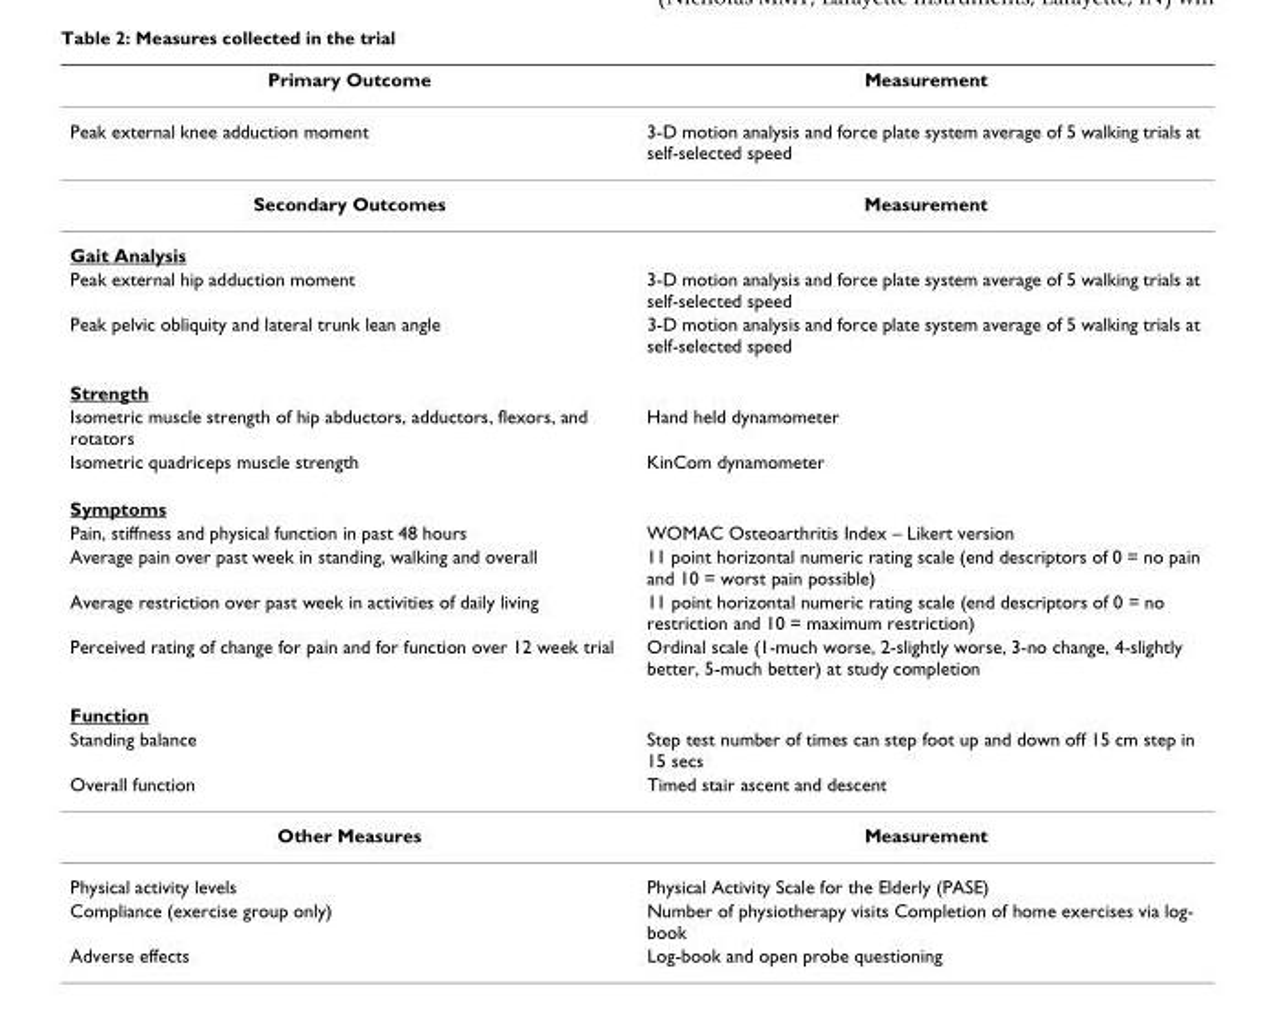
<table><thead><tr><td>Primary Outcome</td><td>Measurement</td></tr></thead><tbody><tr><td>Peak external knee adduction moment</td><td>3-D motion analysis and force plate system average of 5 walking trials at self-selected speed</td></tr><tr><td>Secondary Outcomes</td><td>Measurement</td></tr><tr><td colspan="2">Gait Analysis</td></tr><tr><td>Peak external hip adduction moment</td><td>3-D motion analysis and force plate system average of 5 walking trials at self-selected speed</td></tr><tr><td>Peak pelvic obliquity and lateral trunk lean angle</td><td>3-D motion analysis and force plate system average of 5 walking trials at self-selected speed</td></tr><tr><td colspan="2">Strength</td></tr><tr><td>Isometric muscle strength of hip abductors, adductors, flexors, and rotators</td><td>Hand held dynamometer</td></tr><tr><td>Isometric quadriceps muscle strength</td><td>KinCom dynamometer</td></tr><tr><td colspan="2">Symptoms</td></tr><tr><td>Pain, stiffness and physical function in past 48 hours</td><td>WOMAC Osteoarthritis Index – Likert version</td></tr><tr><td>Average pain over past week in standing, walking and overall</td><td>11 point horizontal numeric rating scale (end descriptors of 0 = no pain and 10 = worst pain possible)</td></tr><tr><td>Average restriction over past week in activities of daily living</td><td>11 point horizontal numeric rating scale (end descriptors of 0 = no restriction and 10 = maximum restriction)</td></tr><tr><td>Perceived rating of change for pain and for function over 12 week trial</td><td>Ordinal scale (1-much worse, 2-slightly worse, 3-no change, 4-slightly better, 5-much better) at study completion</td></tr><tr><td colspan="2">Function</td></tr><tr><td>Standing balance</td><td>Step test number of times can step foot up and down off 15 cm step in 15 secs</td></tr><tr><td>Overall function</td><td>Timed stair ascent and descent</td></tr><tr><td>Other Measures</td><td>Measurement</td></tr><tr><td>Physical activity levels</td><td>Physical Activity Scale for the Elderly (PASE)</td></tr><tr><td>Compliance (exercise group only)</td><td>Number of physiotherapy visits Completion of home exercises via log- book</td></tr><tr><td>Adverse effects</td><td>Log-book and open probe questioning</td></tr></tbody></table>